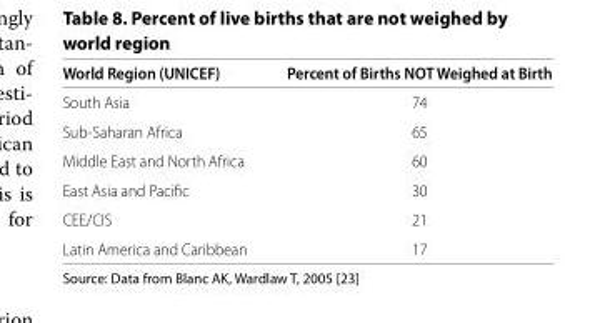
<table><thead><tr><td>World Region (UNICEF)</td><td>Percent of Births NOT Weighed at Birth</td></tr></thead><tbody><tr><td>South Asia</td><td>74</td></tr><tr><td>Sub-Saharan Africa</td><td>65</td></tr><tr><td>Middle East and North Africa</td><td>60</td></tr><tr><td>East Asia and Pacifi c</td><td>30</td></tr><tr><td>CEE/CIS</td><td>21</td></tr><tr><td>Latin America and Caribbean</td><td>17</td></tr></tbody></table>